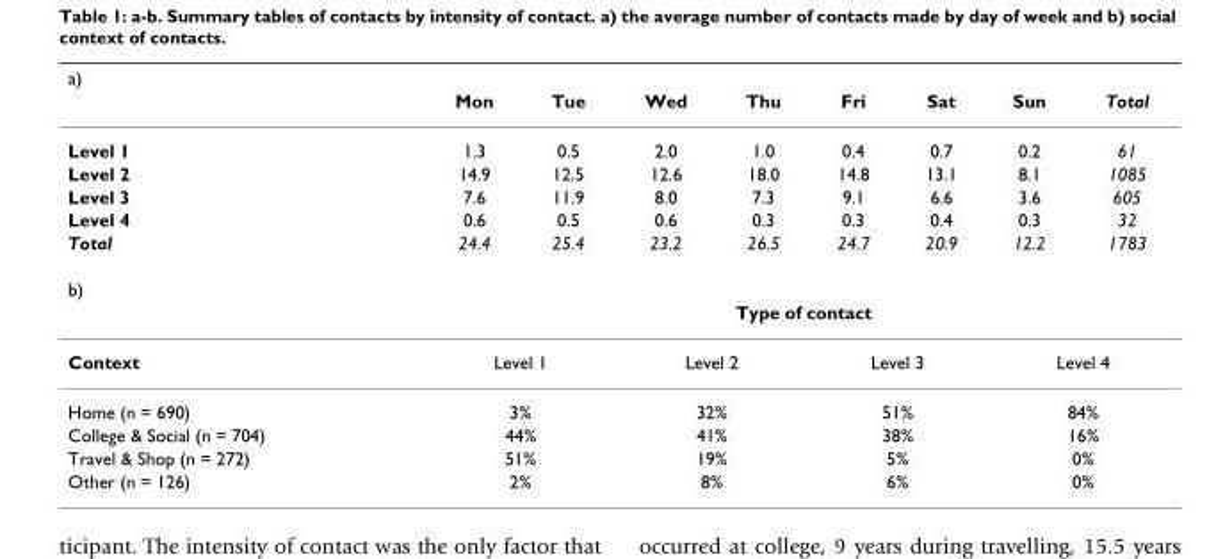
<table><thead><tr><td colspan="9">a)</td></tr><tr><td></td><td>Mon</td><td>Tue</td><td>Wed</td><td>Thu</td><td>Fri</td><td>Sat</td><td>Sun</td><td>Total</td></tr></thead><tbody><tr><td>Level 1</td><td>1.3</td><td>0.5</td><td>2.0</td><td>1.0</td><td>0.4</td><td>0.7</td><td>0.2</td><td>61</td></tr><tr><td>Level 2</td><td>14.9</td><td>12.5</td><td>12.6</td><td>18.0</td><td>14.8</td><td>13.1</td><td>8.1</td><td>1085</td></tr><tr><td>Level 3</td><td>7.6</td><td>11.9</td><td>8.0</td><td>7.3</td><td>9.1</td><td>6.6</td><td>3.6</td><td>605</td></tr><tr><td>Level 4</td><td>0.6</td><td>0.5</td><td>0.6</td><td>0.3</td><td>0.3</td><td>0.4</td><td>0.3</td><td>32</td></tr><tr><td>Total</td><td>24.4</td><td>25.4</td><td>23.2</td><td>26.5</td><td>24.7</td><td>20.9</td><td>12.2</td><td>1783</td></tr><tr><td colspan="9">b)</td></tr><tr><td></td><td colspan="8">Type of contact</td></tr><tr><td>Context</td><td colspan="2">Level 1</td><td colspan="2">Level 2</td><td colspan="2">Level 3</td><td colspan="2">Level 4</td></tr><tr><td>Home (n = 690)</td><td colspan="2">3%</td><td colspan="2">32%</td><td colspan="2">51%</td><td colspan="2">84%</td></tr><tr><td>College &amp; Social (n = 704)</td><td colspan="2">44%</td><td colspan="2">41%</td><td colspan="2">38%</td><td colspan="2">16%</td></tr><tr><td>Travel &amp; Shop (n = 272)</td><td colspan="2">51%</td><td colspan="2">19%</td><td colspan="2">5%</td><td colspan="2">0%</td></tr><tr><td>Other (n = 126)</td><td colspan="2">2%</td><td colspan="2">8%</td><td colspan="2">6%</td><td colspan="2">0%</td></tr></tbody></table>